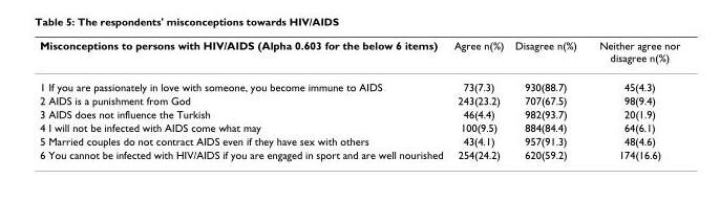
<table><thead><tr><td>Misconceptions to persons with HIV/AIDS (Alpha 0.603 for the below 6 items)</td><td>Agree n(%)</td><td>Disagree n(%)</td><td>Neither agree nor disagree n(%)</td></tr></thead><tbody><tr><td>1 If you are passionately in love with someone, you become immune to AIDS</td><td>73(7.3)</td><td>930(88.7)</td><td>45(4.3)</td></tr><tr><td>2 AIDS is a punishment from God</td><td>243(23.2)</td><td>707(67.5)</td><td>98(9.4)</td></tr><tr><td>3 AIDS does not influence the Turkish</td><td>46(4.4)</td><td>982(93.7)</td><td>20(1.9)</td></tr><tr><td>4 I will not be infected with AIDS come what may</td><td>100(9.5)</td><td>884(84.4)</td><td>64(6.1)</td></tr><tr><td>5 Married couples do not contract AIDS even if they have sex with others</td><td>43(4.1)</td><td>957(91.3)</td><td>48(4.6)</td></tr><tr><td>6 You cannot be infected with HIV/AIDS if you are engaged in sport and are well nourished</td><td>254(24.2)</td><td>620(59.2)</td><td>174(16.6)</td></tr></tbody></table>